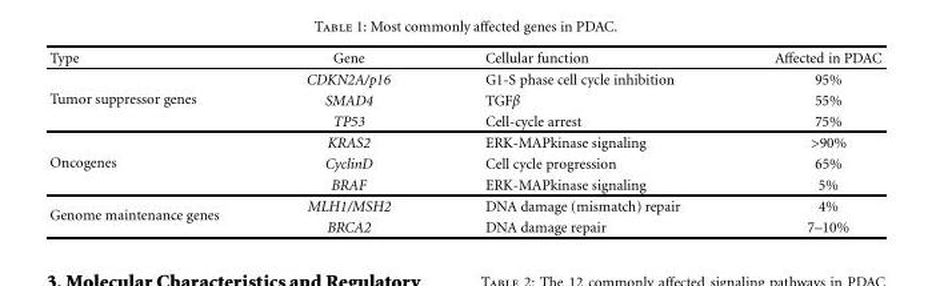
<table><thead><tr><td>Type</td><td>Gene</td><td>Cellular function</td><td>Affected in PDAC</td></tr></thead><tbody><tr><td rowspan="3">Tumor suppressor genes</td><td>CDKN2A/p16</td><td>G1-S phase cell cycle inhibition</td><td>95%</td></tr><tr><td>SMAD4</td><td>TGFβ</td><td>55%</td></tr><tr><td>TP53</td><td>Cell-cycle arrest</td><td>75%</td></tr><tr><td rowspan="3">Oncogenes</td><td>KRAS2</td><td>ERK-MAPkinase signaling</td><td>&gt;90%</td></tr><tr><td>CyclinD</td><td>Cell cycle progression</td><td>65%</td></tr><tr><td>BRAF</td><td>ERK-MAPkinase signaling</td><td>5%</td></tr><tr><td rowspan="2">Genome maintenance genes</td><td>MLH1/MSH2</td><td>DNA damage (mismatch) repair</td><td>4%</td></tr><tr><td>BRCA2</td><td>DNA damage repair</td><td>7–10%</td></tr></tbody></table>